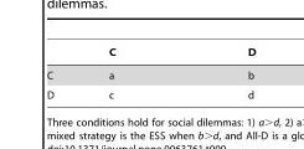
<table><thead><tr><td></td><td>C</td><td>D</td></tr></thead><tbody><tr><td>C</td><td>a</td><td>b</td></tr><tr><td>D</td><td>c</td><td>d</td></tr></tbody></table>